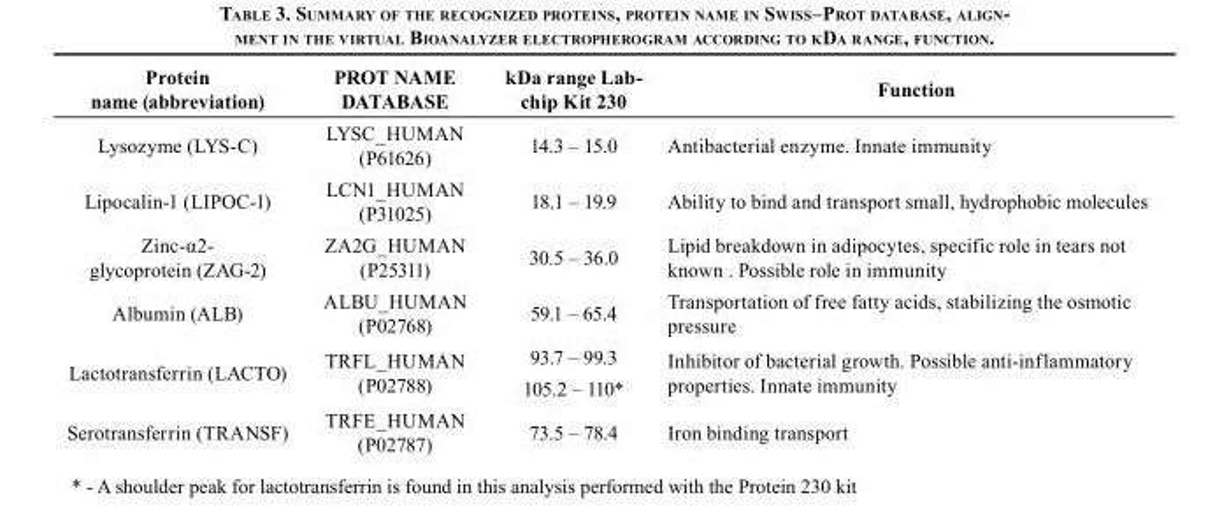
<table><thead><tr><td>Protein name (abbreviation)</td><td>PROT NAME DATABASE</td><td>kDa range Lab- chip Kit 230</td><td>Function</td></tr></thead><tbody><tr><td>Lysozyme (LYS-C)</td><td>LYSC_HUMAN (P61626)</td><td>14.3 – 15.0</td><td>Antibacterial enzyme. Innate immunity</td></tr><tr><td>Lipocalin-1 (LIPOC-1)</td><td>LCN1_HUMAN (P31025)</td><td>18.1 – 19.9</td><td>Ability to bind and transport small, hydrophobic molecules</td></tr><tr><td>Zinc-α2- glycoprotein (ZAG-2)</td><td>ZA2G_HUMAN (P25311)</td><td>30.5 – 36.0</td><td>Lipid breakdown in adipocytes, specific role in tears not known . Possible role in immunity</td></tr><tr><td>Albumin (ALB)</td><td>ALBU_HUMAN (P02768)</td><td>59.1 – 65.4</td><td>Transportation of free fatty acids, stabilizing the osmotic pressure</td></tr><tr><td rowspan="2">Lactotransferrin (LACTO)</td><td rowspan="2">TRFL_HUMAN (P02788)</td><td>93.7 – 99.3</td><td rowspan="2">Inhibitor of bacterial growth. Possible anti-inflammatory properties. Innate immunity</td></tr><tr><td>105.2 – 110*</td></tr><tr><td>Serotransferrin (TRANSF)</td><td>TRFE_HUMAN (P02787)</td><td>73.5 – 78.4</td><td>Iron binding transport</td></tr></tbody></table>